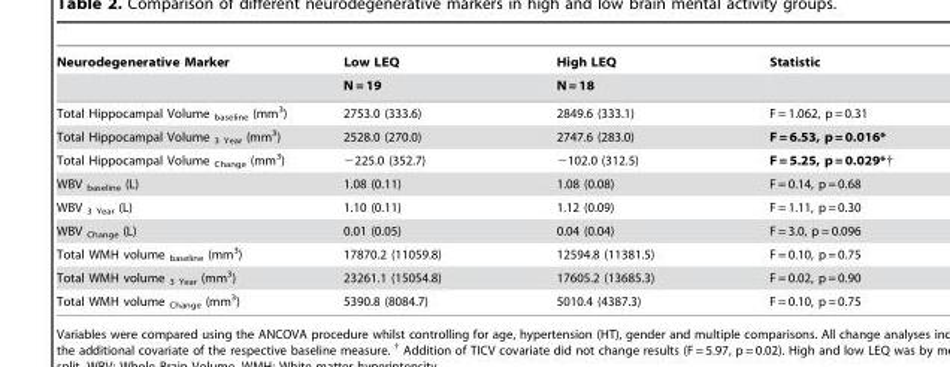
<table><thead><tr><td rowspan="2">Neurodegenerative Marker</td><td rowspan="2">Low LEQ N = 19</td><td rowspan="2">High LEQ N = 18</td><td rowspan="2">Statistic</td></tr><tr></tr></thead><tbody><tr><td>Total Hippocampal Volume <sub>baseline</sub> (mm<sup>3</sup>)</td><td>2753.0 (333.6)</td><td>2849.6 (333.1)</td><td>F = 1.062, p = 0.31</td></tr><tr><td>Total Hippocampal Volume <sub>3 Year</sub> (mm<sup>3</sup>)</td><td>2528.0 (270.0)</td><td>2747.6 (283.0)</td><td>F = 6.53, p = 0.016*</td></tr><tr><td>Total Hippocampal Volume <sub>Change</sub> (mm<sup>3</sup>)</td><td>−225.0 (352.7)</td><td>−102.0 (312.5)</td><td>F = 5.25, p = 0.029*†</td></tr><tr><td>WBV <sub>baseline</sub> (L)</td><td>1.08 (0.11)</td><td>1.08 (0.08)</td><td>F = 0.14, p = 0.68</td></tr><tr><td>WBV <sub>3 Year</sub> (L)</td><td>1.10 (0.11)</td><td>1.12 (0.09)</td><td>F = 1.11, p = 0.30</td></tr><tr><td>WBV <sub>Change</sub> (L)</td><td>0.01 (0.05)</td><td>0.04 (0.04)</td><td>F = 3.0, p = 0.096</td></tr><tr><td>Total WMH volume <sub>baseline</sub> (mm<sup>3</sup>)</td><td>17870.2 (11059.8)</td><td>12594.8 (11381.5)</td><td>F = 0.10, p = 0.75</td></tr><tr><td>Total WMH volume <sub>3 Year</sub> (mm<sup>3</sup>)</td><td>23261.1 (15054.8)</td><td>17605.2 (13685.3)</td><td>F = 0.02, p = 0.90</td></tr><tr><td>Total WMH volume <sub>Change</sub> (mm<sup>3</sup>)</td><td>5390.8 (8084.7)</td><td>5010.4 (4387.3)</td><td>F = 0.10, p = 0.75</td></tr></tbody></table>